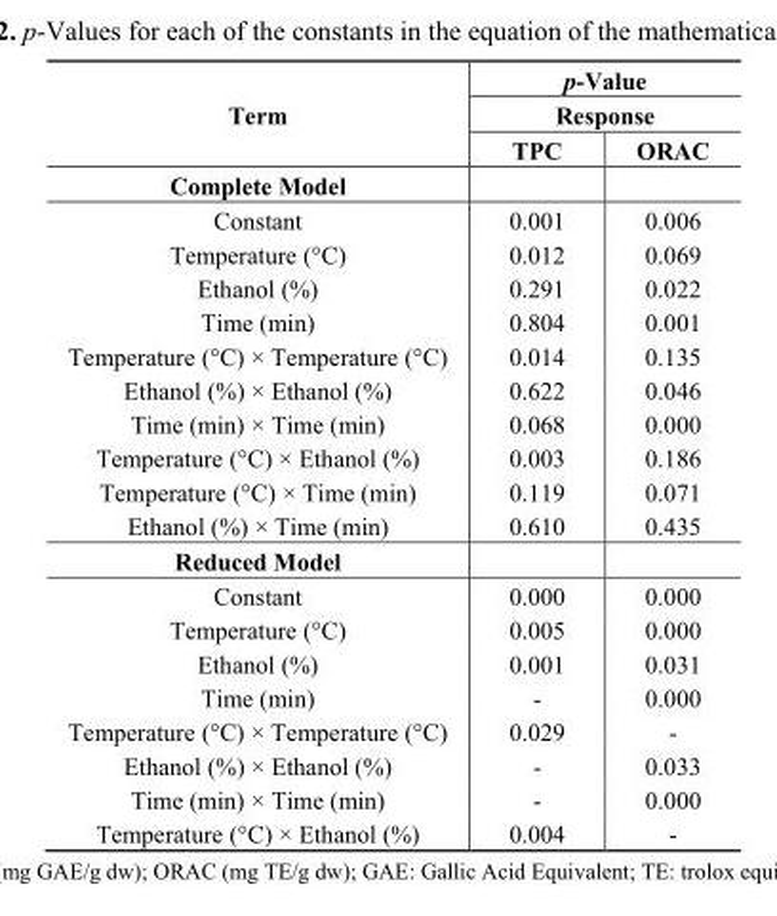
<table><thead><tr><td rowspan="3">Term</td><td rowspan="2" colspan="2">p-Value Response</td></tr><tr></tr><tr><td>TPC</td><td>ORAC</td></tr></thead><tbody><tr><td colspan="3">Complete Model</td></tr><tr><td>Constant</td><td>0.001</td><td>0.006</td></tr><tr><td>Temperature (°C)</td><td>0.012</td><td>0.069</td></tr><tr><td>Ethanol (%)</td><td>0.291</td><td>0.022</td></tr><tr><td>Time (min)</td><td>0.804</td><td>0.001</td></tr><tr><td>Temperature (°C) × Temperature (°C)</td><td>0.014</td><td>0.135</td></tr><tr><td>Ethanol (%) × Ethanol (%)</td><td>0.622</td><td>0.046</td></tr><tr><td>Time (min) × Time (min)</td><td>0.068</td><td>0.000</td></tr><tr><td>Temperature (°C) × Ethanol (%)</td><td>0.003</td><td>0.186</td></tr><tr><td>Temperature (°C) × Time (min)</td><td>0.119</td><td>0.071</td></tr><tr><td>Ethanol (%) × Time (min)</td><td>0.610</td><td>0.435</td></tr><tr><td colspan="3">Reduced Model</td></tr><tr><td>Constant</td><td>0.000</td><td>0.000</td></tr><tr><td>Temperature (°C)</td><td>0.005</td><td>0.000</td></tr><tr><td>Ethanol (%)</td><td>0.001</td><td>0.031</td></tr><tr><td>Time (min)</td><td>-</td><td>0.000</td></tr><tr><td>Temperature (°C) × Temperature (°C)</td><td>0.029</td><td>-</td></tr><tr><td>Ethanol (%) × Ethanol (%)</td><td>-</td><td>0.033</td></tr><tr><td>Time (min) × Time (min)</td><td>-</td><td>0.000</td></tr><tr><td>Temperature (°C) × Ethanol (%)</td><td>0.004</td><td>-</td></tr></tbody></table>